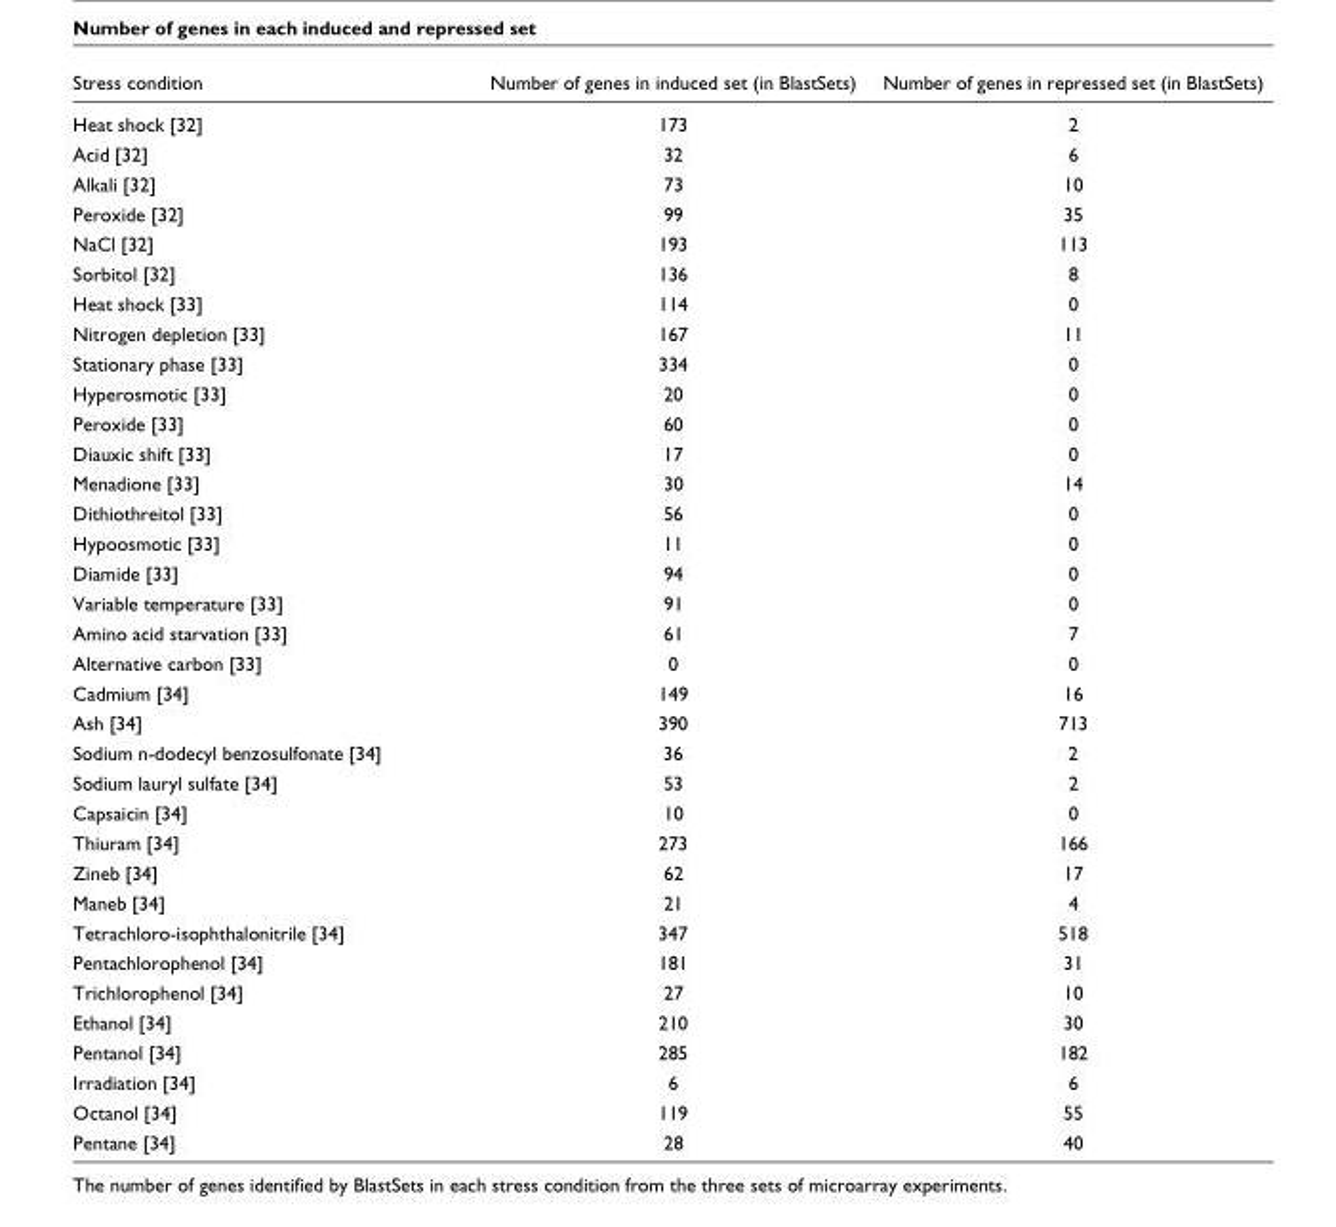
<table><thead><tr><td>Stress condition</td><td>Number of genes in induced set (in BlastSets)</td><td>Number of genes in repressed set (in BlastSets)</td></tr></thead><tbody><tr><td>Heat shock [32]</td><td>173</td><td>2</td></tr><tr><td>Acid [32]</td><td>32</td><td>6</td></tr><tr><td>Alkali [32]</td><td>73</td><td>10</td></tr><tr><td>Peroxide [32]</td><td>99</td><td>35</td></tr><tr><td>NaCl [32]</td><td>193</td><td>113</td></tr><tr><td>Sorbitol [32]</td><td>136</td><td>8</td></tr><tr><td>Heat shock [33]</td><td>114</td><td>0</td></tr><tr><td>Nitrogen depletion [33]</td><td>167</td><td>11</td></tr><tr><td>Stationary phase [33]</td><td>334</td><td>0</td></tr><tr><td>Hyperosmotic [33]</td><td>20</td><td>0</td></tr><tr><td>Peroxide [33]</td><td>60</td><td>0</td></tr><tr><td>Diauxic shift [33]</td><td>17</td><td>0</td></tr><tr><td>Menadione [33]</td><td>30</td><td>14</td></tr><tr><td>Dithiothreitol [33]</td><td>56</td><td>0</td></tr><tr><td>Hypoosmotic [33]</td><td>11</td><td>0</td></tr><tr><td>Diamide [33]</td><td>94</td><td>0</td></tr><tr><td>Variable temperature [33]</td><td>91</td><td>0</td></tr><tr><td>Amino acid starvation [33]</td><td>61</td><td>7</td></tr><tr><td>Alternative carbon [33]</td><td>0</td><td>0</td></tr><tr><td>Cadmium [34]</td><td>149</td><td>16</td></tr><tr><td>Ash [34]</td><td>390</td><td>713</td></tr><tr><td>Sodium n-dodecyl benzosulfonate [34]</td><td>36</td><td>2</td></tr><tr><td>Sodium lauryl sulfate [34]</td><td>53</td><td>2</td></tr><tr><td>Capsaicin [34]</td><td>10</td><td>0</td></tr><tr><td>Thiuram [34]</td><td>273</td><td>166</td></tr><tr><td>Zineb [34]</td><td>62</td><td>17</td></tr><tr><td>Maneb [34]</td><td>21</td><td>4</td></tr><tr><td>Tetrachloro-isophthalonitrile [34]</td><td>347</td><td>518</td></tr><tr><td>Pentachlorophenol [34]</td><td>181</td><td>31</td></tr><tr><td>Trichlorophenol [34]</td><td>27</td><td>10</td></tr><tr><td>Ethanol [34]</td><td>210</td><td>30</td></tr><tr><td>Pentanol [34]</td><td>285</td><td>182</td></tr><tr><td>Irradiation [34]</td><td>6</td><td>6</td></tr><tr><td>Octanol [34]</td><td>119</td><td>55</td></tr><tr><td>Pentane [34]</td><td>28</td><td>40</td></tr></tbody></table>